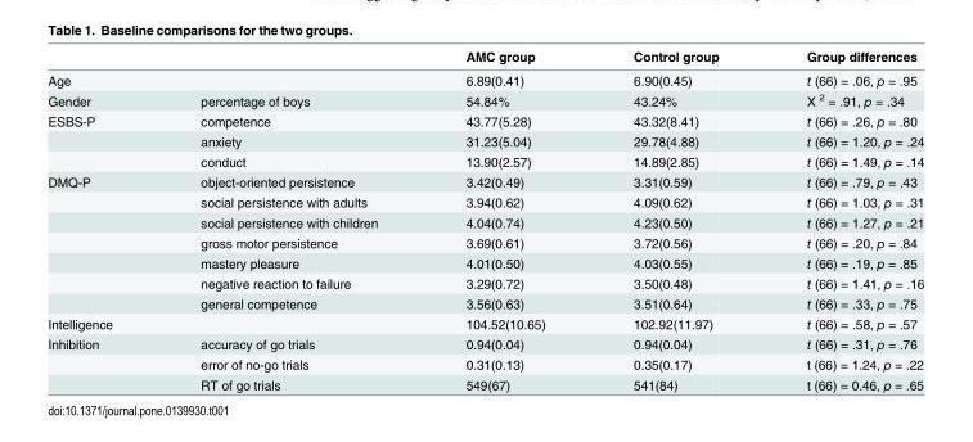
<table><thead><tr><td></td><td></td><td>AMC group</td><td>Control group</td><td>Group differences</td></tr></thead><tbody><tr><td>Age</td><td></td><td>6.89(0.41)</td><td>6.90(0.45)</td><td>t (66) = .06, p = .95</td></tr><tr><td>Gender</td><td>percentage of boys</td><td>54.84%</td><td>43.24%</td><td>X <sup>2</sup> = .91, p = .34</td></tr><tr><td rowspan="3">ESBS-P</td><td>competence</td><td>43.77(5.28)</td><td>43.32(8.41)</td><td>t (66) = .26, p = .80</td></tr><tr><td>anxiety</td><td>31.23(5.04)</td><td>29.78(4.88)</td><td>t (66) = 1.20, p = .24</td></tr><tr><td>conduct</td><td>13.90(2.57)</td><td>14.89(2.85)</td><td>t (66) = 1.49, p = .14</td></tr><tr><td rowspan="7">DMQ-P</td><td>object-oriented persistence</td><td>3.42(0.49)</td><td>3.31(0.59)</td><td>t (66) = .79, p = .43</td></tr><tr><td>social persistence with adults</td><td>3.94(0.62)</td><td>4.09(0.62)</td><td>t (66) = 1.03, p = .31</td></tr><tr><td>social persistence with children</td><td>4.04(0.74)</td><td>4.23(0.50)</td><td>t (66) = 1.27, p = .21</td></tr><tr><td>gross motor persistence</td><td>3.69(0.61)</td><td>3.72(0.56)</td><td>t (66) = .20, p = .84</td></tr><tr><td>mastery pleasure</td><td>4.01(0.50)</td><td>4.03(0.55)</td><td>t (66) = .19, p = .85</td></tr><tr><td>negative reaction to failure</td><td>3.29(0.72)</td><td>3.50(0.48)</td><td>t (66) = 1.41, p = .16</td></tr><tr><td>general competence</td><td>3.56(0.63)</td><td>3.51(0.64)</td><td>t (66) = .33, p = .75</td></tr><tr><td>Intelligence</td><td></td><td>104.52(10.65)</td><td>102.92(11.97)</td><td>t (66) = .58, p = .57</td></tr><tr><td rowspan="3">Inhibition</td><td>accuracy of go trials</td><td>0.94(0.04)</td><td>0.94(0.04)</td><td>t (66) = .31, p = .76</td></tr><tr><td>error of no-go trials</td><td>0.31(0.13)</td><td>0.35(0.17)</td><td>t (66) = 1.24, p = .22</td></tr><tr><td>RT of go trials</td><td>549(67)</td><td>541(84)</td><td>t (66) = 0.46, p = .65</td></tr></tbody></table>